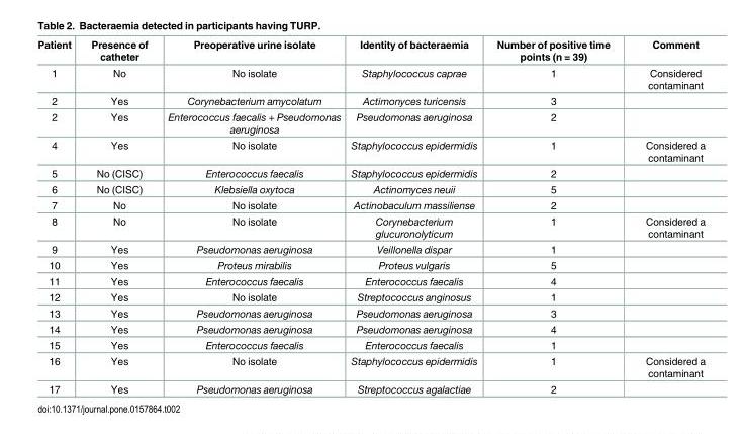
<table><thead><tr><td>Patient</td><td>Presence of catheter</td><td>Preoperative urine isolate</td><td>Identity of bacteraemia</td><td>Number of positive time points (n = 39)</td><td>Comment</td></tr></thead><tbody><tr><td>1</td><td>No</td><td>No isolate</td><td>Staphylococcus caprae</td><td>1</td><td>Considered contaminant</td></tr><tr><td>2</td><td>Yes</td><td>Corynebacterium amycolatum</td><td>Actimonyces turicensis</td><td>3</td><td></td></tr><tr><td>2</td><td>Yes</td><td>Enterococcus faecalis + Pseudomonas aeruginosa</td><td>Pseudomonas aeruginosa</td><td>2</td><td></td></tr><tr><td>4</td><td>Yes</td><td>No isolate</td><td>Staphylococcus epidermidis</td><td>1</td><td>Considered a contaminant</td></tr><tr><td>5</td><td>No (CISC)</td><td>Enterococcus faecalis</td><td>Staphylococcus epidermidis</td><td>2</td><td></td></tr><tr><td>6</td><td>No (CISC)</td><td>Klebsiella oxytoca</td><td>Actinomyces neuii</td><td>5</td><td></td></tr><tr><td>7</td><td>No</td><td>No isolate</td><td>Actinobaculum massiliense</td><td>2</td><td></td></tr><tr><td>8</td><td>No</td><td>No isolate</td><td>Corynebacterium glucuronolyticum</td><td>1</td><td>Considered a contaminant</td></tr><tr><td>9</td><td>Yes</td><td>Pseudomonas aeruginosa</td><td>Veillonella dispar</td><td>1</td><td></td></tr><tr><td>10</td><td>Yes</td><td>Proteus mirabilis</td><td>Proteus vulgaris</td><td>5</td><td></td></tr><tr><td>11</td><td>Yes</td><td>Enterococcus faecalis</td><td>Enterococcus faecalis</td><td>4</td><td></td></tr><tr><td>12</td><td>Yes</td><td>No isolate</td><td>Streptococcus anginosus</td><td>1</td><td></td></tr><tr><td>13</td><td>Yes</td><td>Pseudomonas aeruginosa</td><td>Pseudomonas aeruginosa</td><td>3</td><td></td></tr><tr><td>14</td><td>Yes</td><td>Pseudomonas aeruginosa</td><td>Pseudomonas aeruginosa</td><td>4</td><td></td></tr><tr><td>15</td><td>Yes</td><td>Enterococcus faecalis</td><td>Enterococcus faecalis</td><td>1</td><td></td></tr><tr><td>16</td><td>Yes</td><td>No isolate</td><td>Staphylococcus epidermidis</td><td>1</td><td>Considered a contaminant</td></tr><tr><td>17</td><td>Yes</td><td>Pseudomonas aeruginosa</td><td>Streptococcus agalactiae</td><td>2</td><td></td></tr></tbody></table>